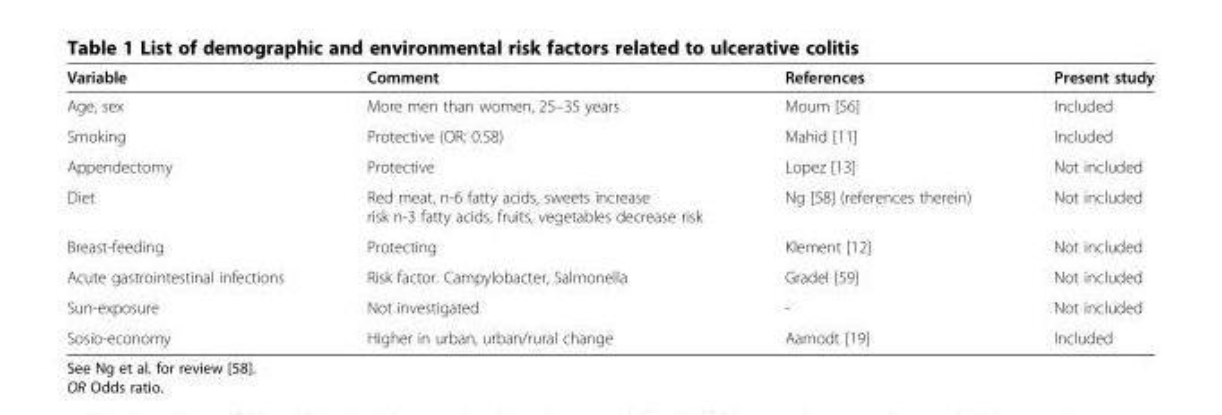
<table><thead><tr><td>Variable</td><td>Comment</td><td>References</td><td>Present study</td></tr></thead><tbody><tr><td>Age, sex</td><td>More men than women, 25–35 years</td><td>Moum [56]</td><td>Included</td></tr><tr><td>Smoking</td><td>Protective (OR: 0.58)</td><td>Mahid [11]</td><td>Included</td></tr><tr><td>Appendectomy</td><td>Protective</td><td>Lopez [13]</td><td>Not included</td></tr><tr><td>Diet</td><td>Red meat, n-6 fatty acids, sweets increase risk n-3 fatty acids, fruits, vegetables decrease risk</td><td>Ng [58] (references therein)</td><td>Not included</td></tr><tr><td>Breast-feeding</td><td>Protecting</td><td>Klement [12]</td><td>Not included</td></tr><tr><td>Acute gastrointestinal infections</td><td>Risk factor. Campylobacter, Salmonella</td><td>Gradel [59]</td><td>Not included</td></tr><tr><td>Sun-exposure</td><td>Not investigated</td><td>-</td><td>Not included</td></tr><tr><td>Sosio-economy</td><td>Higher in urban, urban/rural change</td><td>Aamodt [19]</td><td>Included</td></tr></tbody></table>